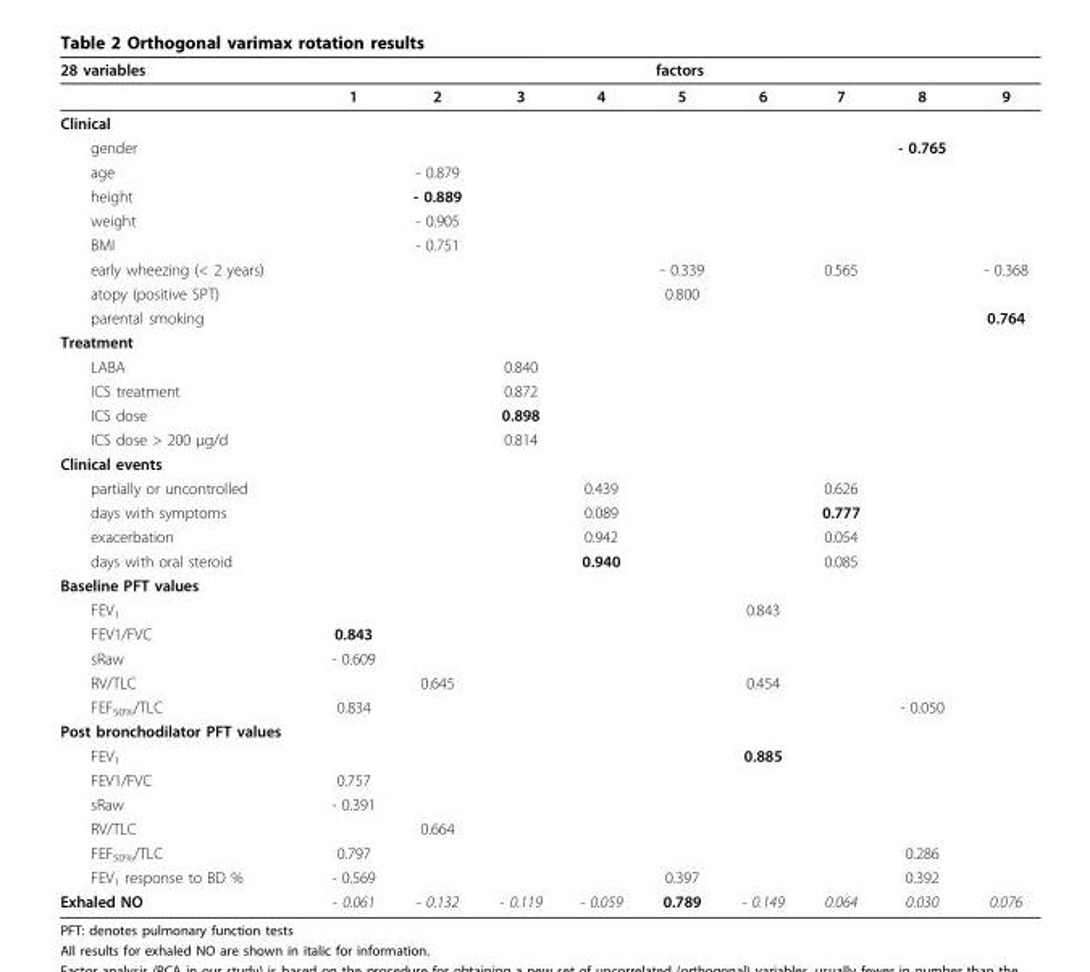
<table><thead><tr><td rowspan="2">28 variables</td><td colspan="9">factors</td></tr><tr><td>1</td><td>2</td><td>3</td><td>4</td><td>5</td><td>6</td><td>7</td><td>8</td><td>9</td></tr></thead><tbody><tr><td colspan="10">Clinical</td></tr><tr><td>gender</td><td></td><td></td><td></td><td></td><td></td><td></td><td></td><td>- 0.765</td><td></td></tr><tr><td>age</td><td></td><td>- 0.879</td><td></td><td></td><td></td><td></td><td></td><td></td><td></td></tr><tr><td>height</td><td></td><td>- 0.889</td><td></td><td></td><td></td><td></td><td></td><td></td><td></td></tr><tr><td>weight</td><td></td><td>- 0.905</td><td></td><td></td><td></td><td></td><td></td><td></td><td></td></tr><tr><td>BMI</td><td></td><td>- 0.751</td><td></td><td></td><td></td><td></td><td></td><td></td><td></td></tr><tr><td>early wheezing (&lt; 2 years)</td><td></td><td></td><td></td><td></td><td>- 0.339</td><td></td><td>0.565</td><td></td><td>- 0.368</td></tr><tr><td>atopy (positive SPT)</td><td></td><td></td><td></td><td></td><td>0.800</td><td></td><td></td><td></td><td></td></tr><tr><td>parental smoking</td><td></td><td></td><td></td><td></td><td></td><td></td><td></td><td></td><td>0.764</td></tr><tr><td colspan="10">Treatment</td></tr><tr><td>LABA</td><td></td><td></td><td>0.840</td><td></td><td></td><td></td><td></td><td></td><td></td></tr><tr><td>ICS treatment</td><td></td><td></td><td>0.872</td><td></td><td></td><td></td><td></td><td></td><td></td></tr><tr><td>ICS dose</td><td></td><td></td><td>0.898</td><td></td><td></td><td></td><td></td><td></td><td></td></tr><tr><td>ICS dose &gt; 200 μg/d</td><td></td><td></td><td>0.814</td><td></td><td></td><td></td><td></td><td></td><td></td></tr><tr><td colspan="10">Clinical events</td></tr><tr><td>partially or uncontrolled</td><td></td><td></td><td></td><td>0.439</td><td></td><td></td><td>0.626</td><td></td><td></td></tr><tr><td>days with symptoms</td><td></td><td></td><td></td><td>0.089</td><td></td><td></td><td>0.777</td><td></td><td></td></tr><tr><td>exacerbation</td><td></td><td></td><td></td><td>0.942</td><td></td><td></td><td>0.054</td><td></td><td></td></tr><tr><td>days with oral steroid</td><td></td><td></td><td></td><td>0.940</td><td></td><td></td><td>0.085</td><td></td><td></td></tr><tr><td colspan="10">Baseline PFT values</td></tr><tr><td>FEV<sub>1</sub></td><td></td><td></td><td></td><td></td><td></td><td>0.843</td><td></td><td></td><td></td></tr><tr><td>FEV1/FVC</td><td>0.843</td><td></td><td></td><td></td><td></td><td></td><td></td><td></td><td></td></tr><tr><td>sRaw</td><td>- 0.609</td><td></td><td></td><td></td><td></td><td></td><td></td><td></td><td></td></tr><tr><td>RV/TLC</td><td></td><td>0.645</td><td></td><td></td><td></td><td>0.454</td><td></td><td></td><td></td></tr><tr><td>FEF<sub>50%</sub>/TLC</td><td>0.834</td><td></td><td></td><td></td><td></td><td></td><td></td><td>- 0.050</td><td></td></tr><tr><td colspan="10">Post bronchodilator PFT values</td></tr><tr><td>FEV<sub>1</sub></td><td></td><td></td><td></td><td></td><td></td><td>0.885</td><td></td><td></td><td></td></tr><tr><td>FEV1/FVC</td><td>0.757</td><td></td><td></td><td></td><td></td><td></td><td></td><td></td><td></td></tr><tr><td>sRaw</td><td>- 0.391</td><td></td><td></td><td></td><td></td><td></td><td></td><td></td><td></td></tr><tr><td>RV/TLC</td><td></td><td>0.664</td><td></td><td></td><td></td><td></td><td></td><td></td><td></td></tr><tr><td>FEF<sub>50%</sub>/TLC</td><td>0.797</td><td></td><td></td><td></td><td></td><td></td><td></td><td>0.286</td><td></td></tr><tr><td>FEV<sub>1</sub> response to BD %</td><td>- 0.569</td><td></td><td></td><td></td><td>0.397</td><td></td><td></td><td>0.392</td><td></td></tr><tr><td>Exhaled NO</td><td>- 0.061</td><td>- 0.132</td><td>- 0.119</td><td>- 0.059</td><td>0.789</td><td>- 0.149</td><td>0.064</td><td>0.030</td><td>0.076</td></tr></tbody></table>